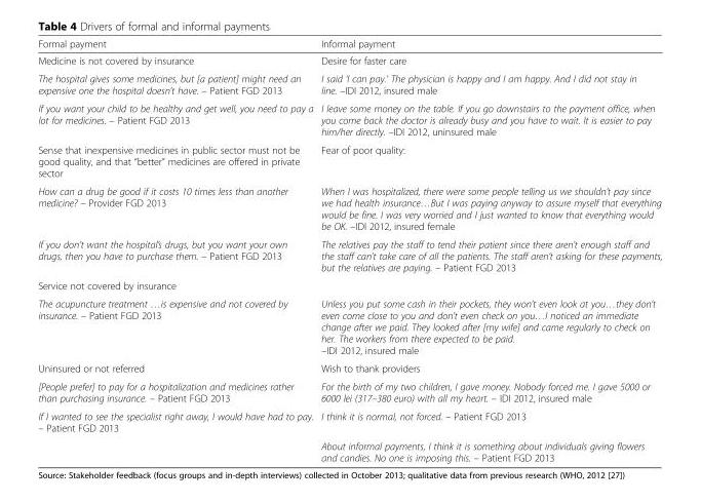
<table><thead><tr><td>Formal payment</td><td>Informal payment</td></tr></thead><tbody><tr><td>Medicine is not covered by insurance</td><td>Desire for faster care</td></tr><tr><td>The hospital gives some medicines, but [a patient] might need an expensive one the hospital doesn’t have. – Patient FGD 2013</td><td>I said ‘I can pay.’ The physician is happy and I am happy. And I did not stay in line. –IDI 2012, insured male</td></tr><tr><td>If you want your child to be healthy and get well, you need to pay a lot for medicines. – Patient FGD 2013</td><td>I leave some money on the table. If you go downstairs to the payment office, when you come back the doctor is already busy and you have to wait. It is easier to pay him/her directly. –IDI 2012, uninsured male</td></tr><tr><td>Sense that inexpensive medicines in public sector must not be good quality, and that “better” medicines are offered in private sector</td><td>Fear of poor quality:</td></tr><tr><td>How can a drug be good if it costs 10 times less than another medicine? – Provider FGD 2013</td><td>When I was hospitalized, there were some people telling us we shouldn’t pay since we had health insurance…But I was paying anyway to assure myself that everything would be fine. I was very worried and I just wanted to know that everything would be OK. –IDI 2012, insured female</td></tr><tr><td>If you don’t want the hospital’s drugs, but you want your own drugs, then you have to purchase them. – Patient FGD 2013</td><td>The relatives pay the staff to tend their patient since there aren’t enough staff and the staff can’t take care of all the patients. The staff aren’t asking for these payments, but the relatives are paying. – Patient FGD 2013</td></tr><tr><td colspan="2">Service not covered by insurance</td></tr><tr><td>The acupuncture treatment …is expensive and not covered by insurance. – Patient FGD 2013</td><td>Unless you put some cash in their pockets, they won’t even look at you…they don’t even come close to you and don’t even check on you…I noticed an immediate change after we paid. They looked after [my wife] and came regularly to check on her. The workers from there expected to be paid. –IDI 2012, insured male</td></tr><tr><td>Uninsured or not referred</td><td>Wish to thank providers</td></tr><tr><td>[People prefer] to pay for a hospitalization and medicines rather than purchasing insurance. – Patient FGD 2013</td><td>For the birth of my two children, I gave money. Nobody forced me. I gave 5000 or 6000 lei (317–380 euro) with all my heart. – IDI 2012, insured male</td></tr><tr><td rowspan="2">If I wanted to see the specialist right away, I would have had to pay. – Patient FGD 2013</td><td>I think it is normal, not forced. – Patient FGD 2013</td></tr><tr><td>About informal payments, I think it is something about individuals giving flowers and candies. No one is imposing this. – Patient FGD 2013</td></tr></tbody></table>